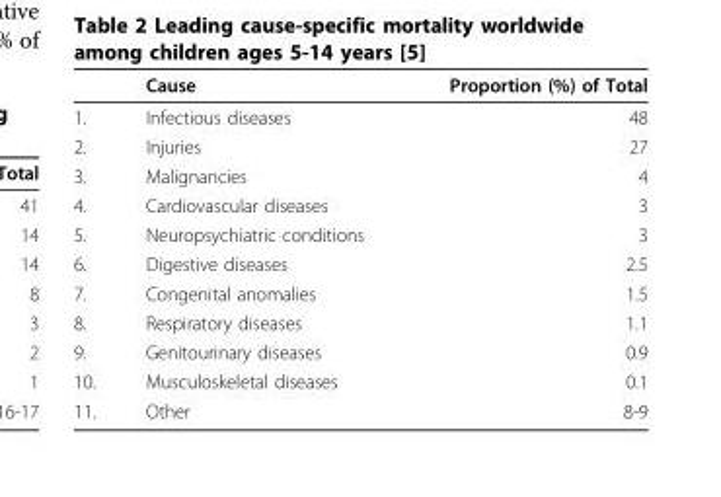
<table><thead><tr><td></td><td>Cause</td><td>Proportion (%) of Total</td></tr></thead><tbody><tr><td>1.</td><td>Infectious diseases</td><td>48</td></tr><tr><td>2.</td><td>Injuries</td><td>27</td></tr><tr><td>3.</td><td>Malignancies</td><td>4</td></tr><tr><td>4.</td><td>Cardiovascular diseases</td><td>3</td></tr><tr><td>5.</td><td>Neuropsychiatric conditions</td><td>3</td></tr><tr><td>6.</td><td>Digestive diseases</td><td>2.5</td></tr><tr><td>7.</td><td>Congenital anomalies</td><td>1.5</td></tr><tr><td>8.</td><td>Respiratory diseases</td><td>1.1</td></tr><tr><td>9.</td><td>Genitourinary diseases</td><td>0.9</td></tr><tr><td>10.</td><td>Musculoskeletal diseases</td><td>0.1</td></tr><tr><td>11.</td><td>Other</td><td>8-9</td></tr></tbody></table>